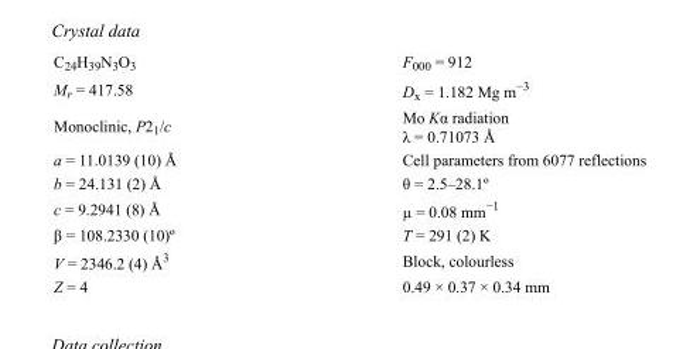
<table><tbody><tr><td>C<sub>24</sub>H<sub>39</sub>N<sub>3</sub>O<sub>3</sub></td><td>F<sub>000</sub> = 912</td></tr><tr><td>M<sub>r</sub> = 417.58</td><td>D<sub>x</sub> = 1.182 Mg m<sup>−3</sup></td></tr><tr><td>Monoclinic, P2<sub>1</sub>/c</td><td>Mo Kα radiation λ = 0.71073 Å</td></tr><tr><td>a = 11.0139 (10) Å</td><td>Cell parameters from 6077 reflections</td></tr><tr><td>b = 24.131 (2) Å</td><td>θ = 2.5–28.1º</td></tr><tr><td>c = 9.2941 (8) Å</td><td>µ = 0.08 mm<sup>−1</sup></td></tr><tr><td>β = 108.2330 (10)º</td><td>T = 291 (2) K</td></tr><tr><td>V = 2346.2 (4) Å<sup>3</sup></td><td>Block, colourless</td></tr><tr><td>Z = 4</td><td>0.49 × 0.37 × 0.34 mm</td></tr></tbody></table>